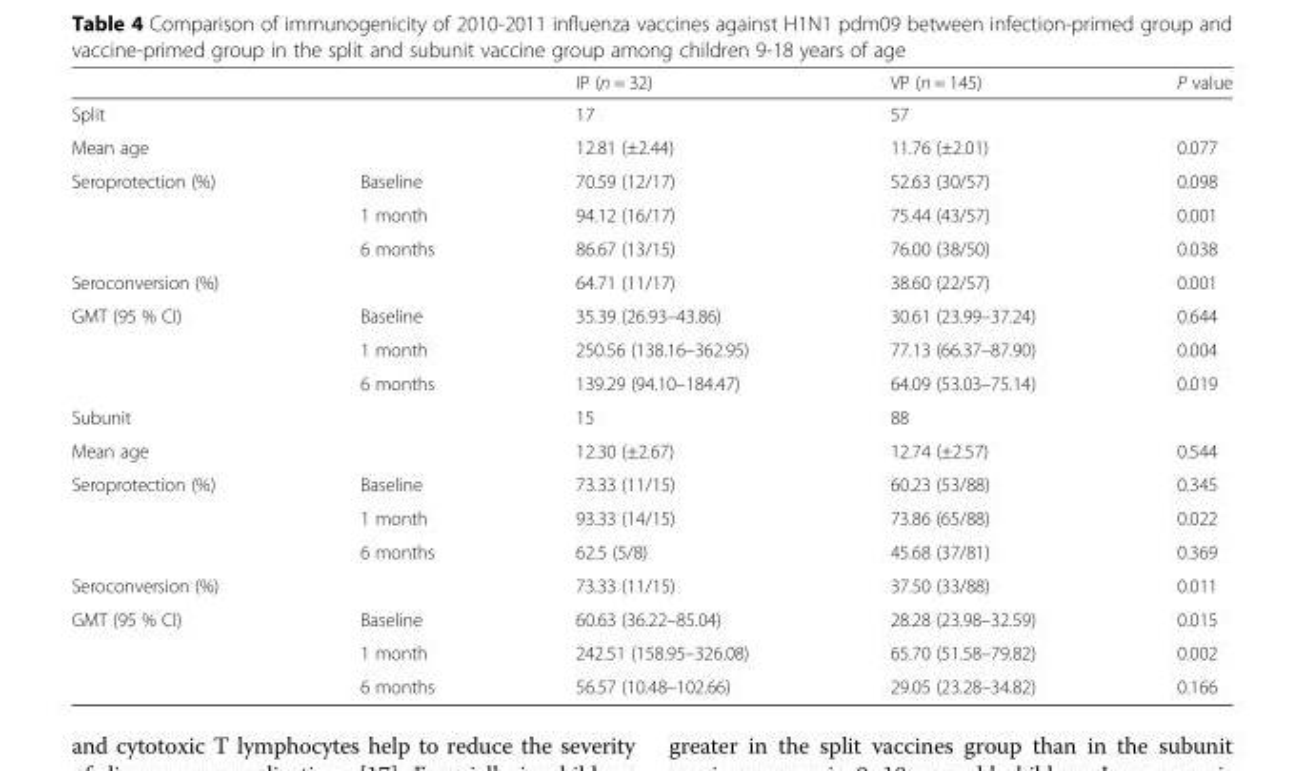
<table><thead><tr><td></td><td></td><td>IP (n = 32)</td><td>VP (n = 145)</td><td>P value</td></tr></thead><tbody><tr><td>Split</td><td></td><td>17</td><td>57</td><td></td></tr><tr><td>Mean age</td><td></td><td>12.81 (±2.44)</td><td>11.76 (±2.01)</td><td>0.077</td></tr><tr><td rowspan="3">Seroprotection (%)</td><td>Baseline</td><td>70.59 (12/17)</td><td>52.63 (30/57)</td><td>0.098</td></tr><tr><td>1 month</td><td>94.12 (16/17)</td><td>75.44 (43/57)</td><td>0.001</td></tr><tr><td>6 months</td><td>86.67 (13/15)</td><td>76.00 (38/50)</td><td>0.038</td></tr><tr><td>Seroconversion (%)</td><td></td><td>64.71 (11/17)</td><td>38.60 (22/57)</td><td>0.001</td></tr><tr><td rowspan="3">GMT (95 % CI)</td><td>Baseline</td><td>35.39 (26.93–43.86)</td><td>30.61 (23.99–37.24)</td><td>0.644</td></tr><tr><td>1 month</td><td>250.56 (138.16–362.95)</td><td>77.13 (66.37–87.90)</td><td>0.004</td></tr><tr><td>6 months</td><td>139.29 (94.10–184.47)</td><td>64.09 (53.03–75.14)</td><td>0.019</td></tr><tr><td>Subunit</td><td></td><td>15</td><td>88</td><td></td></tr><tr><td>Mean age</td><td></td><td>12.30 (±2.67)</td><td>12.74 (±2.57)</td><td>0.544</td></tr><tr><td rowspan="3">Seroprotection (%)</td><td>Baseline</td><td>73.33 (11/15)</td><td>60.23 (53/88)</td><td>0.345</td></tr><tr><td>1 month</td><td>93.33 (14/15)</td><td>73.86 (65/88)</td><td>0.022</td></tr><tr><td>6 months</td><td>62.5 (5/8)</td><td>45.68 (37/81)</td><td>0.369</td></tr><tr><td>Seroconversion (%)</td><td></td><td>73.33 (11/15)</td><td>37.50 (33/88)</td><td>0.011</td></tr><tr><td rowspan="3">GMT (95 % CI)</td><td>Baseline</td><td>60.63 (36.22–85.04)</td><td>28.28 (23.98–32.59)</td><td>0.015</td></tr><tr><td>1 month</td><td>242.51 (158.95–326.08)</td><td>65.70 (51.58–79.82)</td><td>0.002</td></tr><tr><td>6 months</td><td>56.57 (10.48–102.66)</td><td>29.05 (23.28–34.82)</td><td>0.166</td></tr></tbody></table>